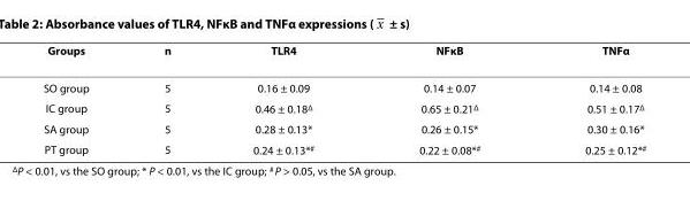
<table><thead><tr><td>Groups</td><td>n</td><td>TLR4</td><td>NFκB</td><td>TNFα</td></tr></thead><tbody><tr><td>SO group</td><td>5</td><td>0.16 ± 0.09</td><td>0.14 ± 0.07</td><td>0.14 ± 0.08</td></tr><tr><td>IC group</td><td>5</td><td>0.46 ± 0.18<sup>Δ</sup></td><td>0.65 ± 0.21<sup>Δ</sup></td><td>0.51 ± 0.17<sup>Δ</sup></td></tr><tr><td>SA group</td><td>5</td><td>0.28 ± 0.13*</td><td>0.26 ± 0.15*</td><td>0.30 ± 0.16*</td></tr><tr><td>PT group</td><td>5</td><td>0.24 ± 0.13*<sup>#</sup></td><td>0.22 ± 0.08*<sup>#</sup></td><td>0.25 ± 0.12*<sup>#</sup></td></tr></tbody></table>